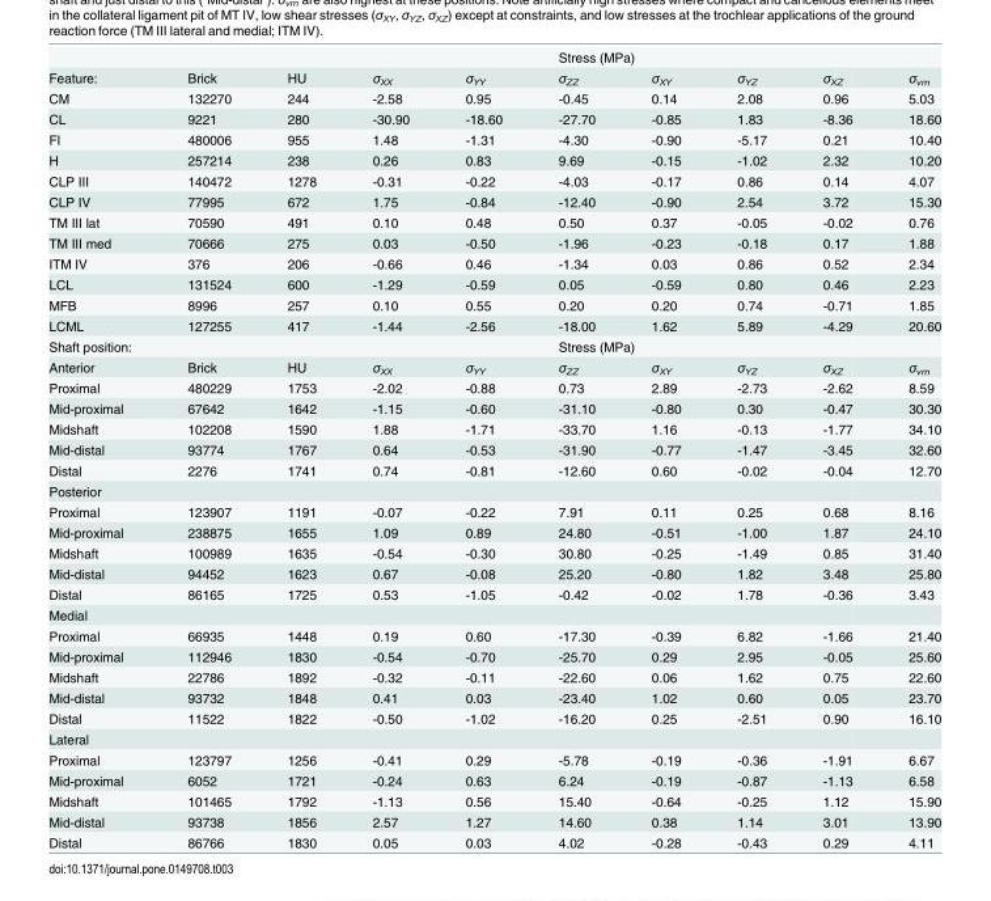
<table><thead><tr><td rowspan="2">Feature:</td><td rowspan="2">Brick</td><td rowspan="2">HU</td><td rowspan="2">σ<sub>XX</sub></td><td rowspan="2">σ<sub>YY</sub></td><td colspan="2">Stress (MPa)</td><td rowspan="2">σ<sub>YZ</sub></td><td rowspan="2">σ<sub>XZ</sub></td><td rowspan="2">σ<sub>vm</sub></td></tr><tr><td>σ<sub>ZZ</sub></td><td>σ<sub>XY</sub></td></tr></thead><tbody><tr><td>CM</td><td>132270</td><td>244</td><td>-2.58</td><td>0.95</td><td>-0.45</td><td>0.14</td><td>2.08</td><td>0.96</td><td>5.03</td></tr><tr><td>CL</td><td>9221</td><td>280</td><td>-30.90</td><td>-18.60</td><td>-27.70</td><td>-0.85</td><td>1.83</td><td>-8.36</td><td>18.60</td></tr><tr><td>FI</td><td>480006</td><td>955</td><td>1.48</td><td>-1.31</td><td>-4.30</td><td>-0.90</td><td>-5.17</td><td>0.21</td><td>10.40</td></tr><tr><td>H</td><td>257214</td><td>238</td><td>0.26</td><td>0.83</td><td>9.69</td><td>-0.15</td><td>-1.02</td><td>2.32</td><td>10.20</td></tr><tr><td>CLP III</td><td>140472</td><td>1278</td><td>-0.31</td><td>-0.22</td><td>-4.03</td><td>-0.17</td><td>0.86</td><td>0.14</td><td>4.07</td></tr><tr><td>CLP IV</td><td>77995</td><td>672</td><td>1.75</td><td>-0.84</td><td>-12.40</td><td>-0.90</td><td>2.54</td><td>3.72</td><td>15.30</td></tr><tr><td>TM III lat</td><td>70590</td><td>491</td><td>0.10</td><td>0.48</td><td>0.50</td><td>0.37</td><td>-0.05</td><td>-0.02</td><td>0.76</td></tr><tr><td>TM III med</td><td>70666</td><td>275</td><td>0.03</td><td>-0.50</td><td>-1.96</td><td>-0.23</td><td>-0.18</td><td>0.17</td><td>1.88</td></tr><tr><td>ITM IV</td><td>376</td><td>206</td><td>-0.66</td><td>0.46</td><td>-1.34</td><td>0.03</td><td>0.86</td><td>0.52</td><td>2.34</td></tr><tr><td>LCL</td><td>131524</td><td>600</td><td>-1.29</td><td>-0.59</td><td>0.05</td><td>-0.59</td><td>0.80</td><td>0.46</td><td>2.23</td></tr><tr><td>MFB</td><td>8996</td><td>257</td><td>0.10</td><td>0.55</td><td>0.20</td><td>0.20</td><td>0.74</td><td>-0.71</td><td>1.85</td></tr><tr><td>LCML</td><td>127255</td><td>417</td><td>-1.44</td><td>-2.56</td><td>-18.00</td><td>1.62</td><td>5.89</td><td>-4.29</td><td>20.60</td></tr><tr><td>Shaft position:</td><td></td><td></td><td></td><td></td><td colspan="2">Stress (MPa)</td><td></td><td></td><td></td></tr><tr><td>Anterior</td><td>Brick</td><td>HU</td><td>σ<sub>XX</sub></td><td>σ<sub>YY</sub></td><td>σ<sub>ZZ</sub></td><td>σ<sub>XY</sub></td><td>σ<sub>YZ</sub></td><td>σ<sub>XZ</sub></td><td>σ<sub>vm</sub></td></tr><tr><td>Proximal</td><td>480229</td><td>1753</td><td>-2.02</td><td>-0.88</td><td>0.73</td><td>2.89</td><td>-2.73</td><td>-2.62</td><td>8.59</td></tr><tr><td>Mid-proximal</td><td>67642</td><td>1642</td><td>-1.15</td><td>-0.60</td><td>-31.10</td><td>-0.80</td><td>0.30</td><td>-0.47</td><td>30.30</td></tr><tr><td>Midshaft</td><td>102208</td><td>1590</td><td>1.88</td><td>-1.71</td><td>-33.70</td><td>1.16</td><td>-0.13</td><td>-1.77</td><td>34.10</td></tr><tr><td>Mid-distal</td><td>93774</td><td>1767</td><td>0.64</td><td>-0.53</td><td>-31.90</td><td>-0.77</td><td>-1.47</td><td>-3.45</td><td>32.60</td></tr><tr><td>Distal</td><td>2276</td><td>1741</td><td>0.74</td><td>-0.81</td><td>-12.60</td><td>0.60</td><td>-0.02</td><td>-0.04</td><td>12.70</td></tr><tr><td colspan="10">Posterior</td></tr><tr><td>Proximal</td><td>123907</td><td>1191</td><td>-0.07</td><td>-0.22</td><td>7.91</td><td>0.11</td><td>0.25</td><td>0.68</td><td>8.16</td></tr><tr><td>Mid-proximal</td><td>238875</td><td>1655</td><td>1.09</td><td>0.89</td><td>24.80</td><td>-0.51</td><td>-1.00</td><td>1.87</td><td>24.10</td></tr><tr><td>Midshaft</td><td>100989</td><td>1635</td><td>-0.54</td><td>-0.30</td><td>30.80</td><td>-0.25</td><td>-1.49</td><td>0.85</td><td>31.40</td></tr><tr><td>Mid-distal</td><td>94452</td><td>1623</td><td>0.67</td><td>-0.08</td><td>25.20</td><td>-0.80</td><td>1.82</td><td>3.48</td><td>25.80</td></tr><tr><td>Distal</td><td>86165</td><td>1725</td><td>0.53</td><td>-1.05</td><td>-0.42</td><td>-0.02</td><td>1.78</td><td>-0.36</td><td>3.43</td></tr><tr><td colspan="10">Medial</td></tr><tr><td>Proximal</td><td>66935</td><td>1448</td><td>0.19</td><td>0.60</td><td>-17.30</td><td>-0.39</td><td>6.82</td><td>-1.66</td><td>21.40</td></tr><tr><td>Mid-proximal</td><td>112946</td><td>1830</td><td>-0.54</td><td>-0.70</td><td>-25.70</td><td>0.29</td><td>2.95</td><td>-0.05</td><td>25.60</td></tr><tr><td>Midshaft</td><td>22786</td><td>1892</td><td>-0.32</td><td>-0.11</td><td>-22.60</td><td>0.06</td><td>1.62</td><td>0.75</td><td>22.60</td></tr><tr><td>Mid-distal</td><td>93732</td><td>1848</td><td>0.41</td><td>0.03</td><td>-23.40</td><td>1.02</td><td>0.60</td><td>0.05</td><td>23.70</td></tr><tr><td>Distal</td><td>11522</td><td>1822</td><td>-0.50</td><td>-1.02</td><td>-16.20</td><td>0.25</td><td>-2.51</td><td>0.90</td><td>16.10</td></tr><tr><td colspan="10">Lateral</td></tr><tr><td>Proximal</td><td>123797</td><td>1256</td><td>-0.41</td><td>0.29</td><td>-5.78</td><td>-0.19</td><td>-0.36</td><td>-1.91</td><td>6.67</td></tr><tr><td>Mid-proximal</td><td>6052</td><td>1721</td><td>-0.24</td><td>0.63</td><td>6.24</td><td>-0.19</td><td>-0.87</td><td>-1.13</td><td>6.58</td></tr><tr><td>Midshaft</td><td>101465</td><td>1792</td><td>-1.13</td><td>0.56</td><td>15.40</td><td>-0.64</td><td>-0.25</td><td>1.12</td><td>15.90</td></tr><tr><td>Mid-distal</td><td>93738</td><td>1856</td><td>2.57</td><td>1.27</td><td>14.60</td><td>0.38</td><td>1.14</td><td>3.01</td><td>13.90</td></tr><tr><td>Distal</td><td>86766</td><td>1830</td><td>0.05</td><td>0.03</td><td>4.02</td><td>-0.28</td><td>-0.43</td><td>0.29</td><td>4.11</td></tr></tbody></table>